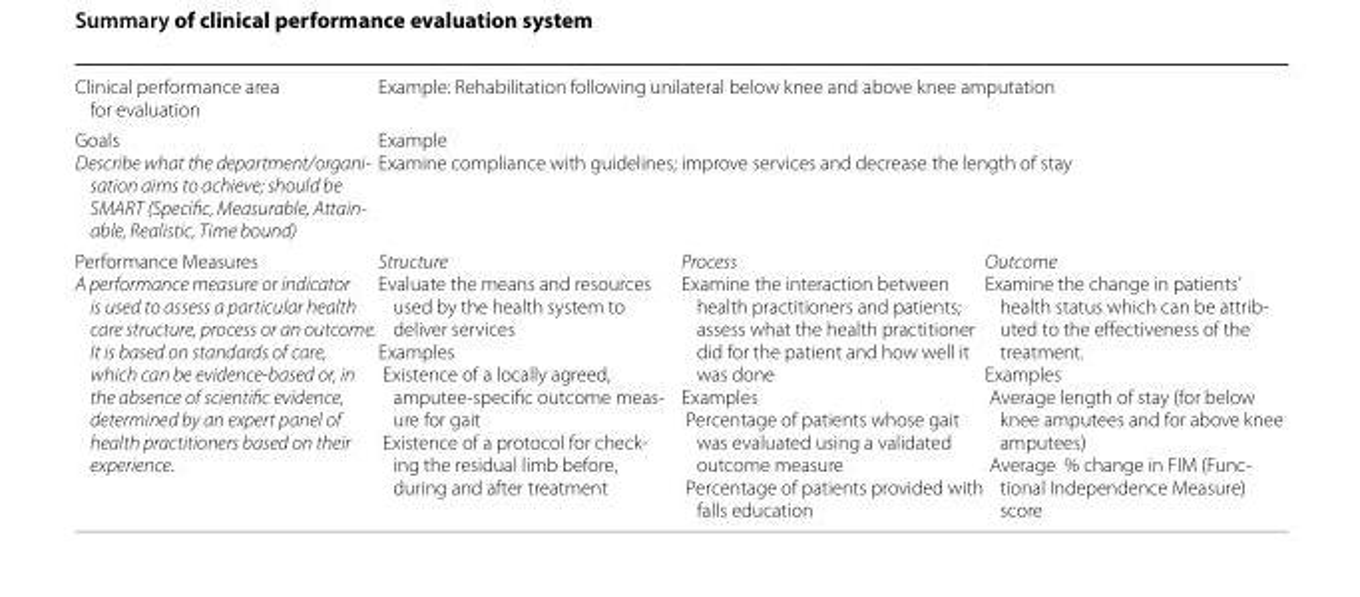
<table><tbody><tr><td>Clinical performance area for evaluation</td><td colspan="3">Example: Rehabilitation following unilateral below knee and above knee amputation</td></tr><tr><td>Goals Describe what the department/organi- sation aims to achieve; should be SMART (Specific, Measurable, Attain- able, Realistic, Time bound)</td><td colspan="3">Example Examine compliance with guidelines; improve services and decrease the length of stay</td></tr><tr><td>Performance Measures A performance measure or indicator is used to assess a particular health care structure, process or an outcome. It is based on standards of care, which can be evidence-based or, in the absence of scientific evidence, determined by an expert panel of health practitioners based on their experience.</td><td>Structure Evaluate the means and resources used by the health system to deliver services Examples Existence of a locally agreed, amputee-specific outcome meas- ure for gait Existence of a protocol for check- ing the residual limb before, during and after treatment</td><td>Process Examine the interaction between health practitioners and patients; assess what the health practitioner did for the patient and how well it was done Examples Percentage of patients whose gait was evaluated using a validated outcome measure Percentage of patients provided with falls education</td><td>Outcome Examine the change in patients’ health status which can be attrib- uted to the effectiveness of the treatment. Examples Average length of stay (for below knee amputees and for above knee amputees) Average % change in FIM (Func- tional Independence Measure) score</td></tr></tbody></table>